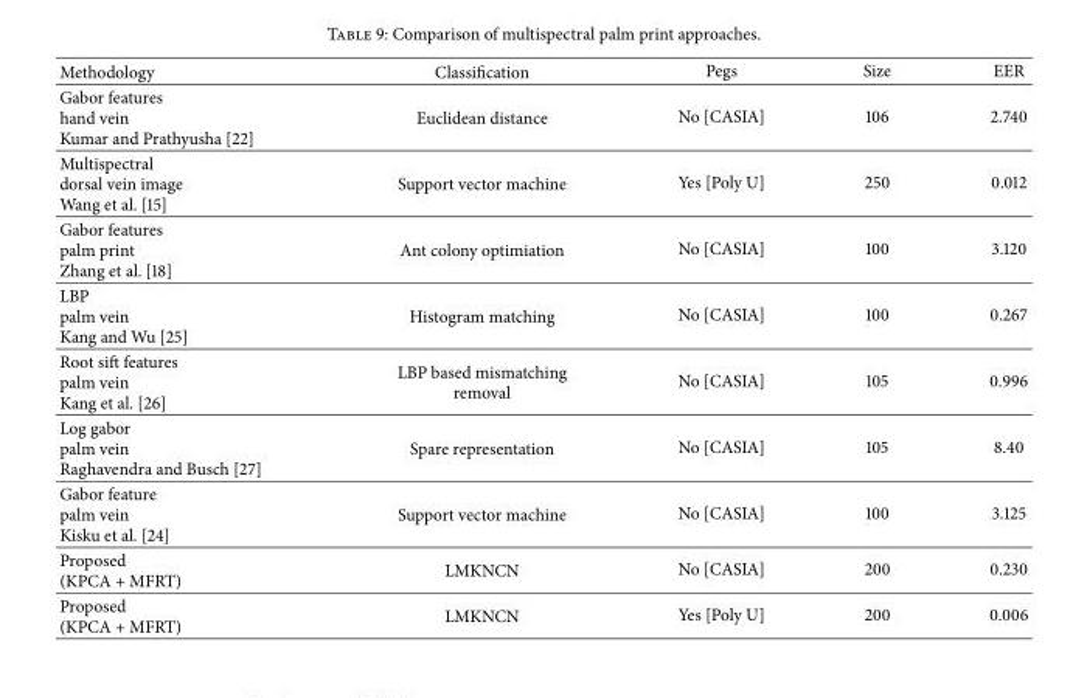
<table><thead><tr><td>Methodology</td><td>Classification</td><td>Pegs</td><td>Size</td><td>EER</td></tr></thead><tbody><tr><td>Gabor features hand vein Kumar and Prathyusha [22]</td><td>Euclidean distance</td><td>No [CASIA]</td><td>106</td><td>2.740</td></tr><tr><td>Multispectral dorsal vein image Wang et al. [15]</td><td>Support vector machine</td><td>Yes [Poly U]</td><td>250</td><td>0.012</td></tr><tr><td>Gabor features palm print Zhang et al. [18]</td><td>Ant colony optimiation</td><td>No [CASIA]</td><td>100</td><td>3.120</td></tr><tr><td>LBP palm vein Kang and Wu [25]</td><td>Histogram matching</td><td>No [CASIA]</td><td>100</td><td>0.267</td></tr><tr><td>Root sift features palm vein Kang et al. [26]</td><td>LBP based mismatching removal</td><td>No [CASIA]</td><td>105</td><td>0.996</td></tr><tr><td>Log gabor palm vein Raghavendra and Busch [27]</td><td>Spare representation</td><td>No [CASIA]</td><td>105</td><td>8.40</td></tr><tr><td>Gabor feature palm vein Kisku et al. [24]</td><td>Support vector machine</td><td>No [CASIA]</td><td>100</td><td>3.125</td></tr><tr><td>Proposed (KPCA + MFRT)</td><td>LMKNCN</td><td>No [CASIA]</td><td>200</td><td>0.230</td></tr><tr><td>Proposed (KPCA + MFRT)</td><td>LMKNCN</td><td>Yes [Poly U]</td><td>200</td><td>0.006</td></tr></tbody></table>